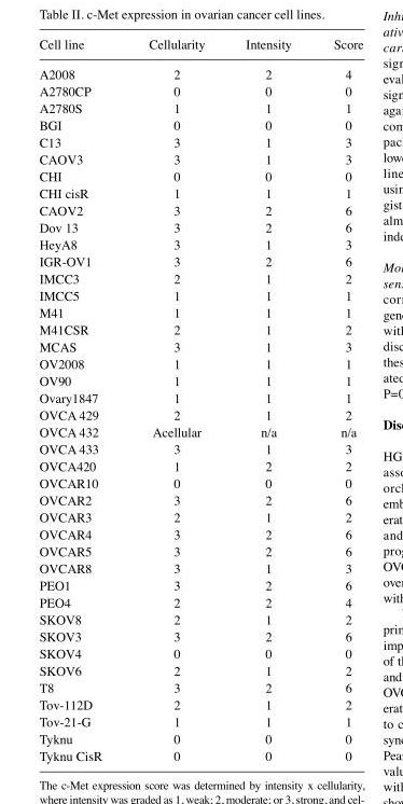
<table><thead><tr><td>Cell line</td><td>Cellularity</td><td>Intensity</td><td>Score</td></tr></thead><tbody><tr><td>A2008</td><td>2</td><td>2</td><td>4</td></tr><tr><td>A2780CP</td><td>0</td><td>0</td><td>0</td></tr><tr><td>A2780S</td><td>1</td><td>1</td><td>1</td></tr><tr><td>BGI</td><td>0</td><td>0</td><td>0</td></tr><tr><td>C13</td><td>3</td><td>1</td><td>3</td></tr><tr><td>CAOV3</td><td>3</td><td>1</td><td>3</td></tr><tr><td>CHI</td><td>0</td><td>0</td><td>0</td></tr><tr><td>CHI cisR</td><td>1</td><td>1</td><td>1</td></tr><tr><td>CAOV2</td><td>3</td><td>2</td><td>6</td></tr><tr><td>Dov 13</td><td>3</td><td>2</td><td>6</td></tr><tr><td>HeyA8</td><td>3</td><td>1</td><td>3</td></tr><tr><td>IGR-OV1</td><td>3</td><td>2</td><td>6</td></tr><tr><td>IMCC3</td><td>2</td><td>1</td><td>2</td></tr><tr><td>IMCC5</td><td>1</td><td>1</td><td>1</td></tr><tr><td>M41</td><td>1</td><td>1</td><td>1</td></tr><tr><td>M41CSR</td><td>2</td><td>1</td><td>2</td></tr><tr><td>MCAS</td><td>3</td><td>1</td><td>3</td></tr><tr><td>OV2008</td><td>1</td><td>1</td><td>1</td></tr><tr><td>OV90</td><td>1</td><td>1</td><td>1</td></tr><tr><td>Ovary1847</td><td>1</td><td>1</td><td>1</td></tr><tr><td>OVCA 429</td><td>2</td><td>1</td><td>2</td></tr><tr><td>OVCA 432</td><td>Acellular</td><td>n/a</td><td>n/a</td></tr><tr><td>OVCA 433</td><td>3</td><td>1</td><td>3</td></tr><tr><td>OVCA420</td><td>1</td><td>2</td><td>2</td></tr><tr><td>OVCAR10</td><td>0</td><td>0</td><td>0</td></tr><tr><td>OVCAR2</td><td>3</td><td>2</td><td>6</td></tr><tr><td>OVCAR3</td><td>2</td><td>1</td><td>2</td></tr><tr><td>OVCAR4</td><td>3</td><td>2</td><td>6</td></tr><tr><td>OVCAR5</td><td>3</td><td>2</td><td>6</td></tr><tr><td>OVCAR8</td><td>3</td><td>1</td><td>3</td></tr><tr><td>PEO1</td><td>3</td><td>2</td><td>6</td></tr><tr><td>PEO4</td><td>2</td><td>2</td><td>4</td></tr><tr><td>SKOV8</td><td>2</td><td>1</td><td>2</td></tr><tr><td>SKOV3</td><td>3</td><td>2</td><td>6</td></tr><tr><td>SKOV4</td><td>0</td><td>0</td><td>0</td></tr><tr><td>SKOV6</td><td>2</td><td>1</td><td>2</td></tr><tr><td>T8</td><td>3</td><td>2</td><td>6</td></tr><tr><td>Tov-112D</td><td>2</td><td>1</td><td>2</td></tr><tr><td>Tov-21-G</td><td>1</td><td>1</td><td>1</td></tr><tr><td>Tyknu</td><td>0</td><td>0</td><td>0</td></tr><tr><td>Tyknu CisR</td><td>0</td><td>0</td><td>0</td></tr></tbody></table>